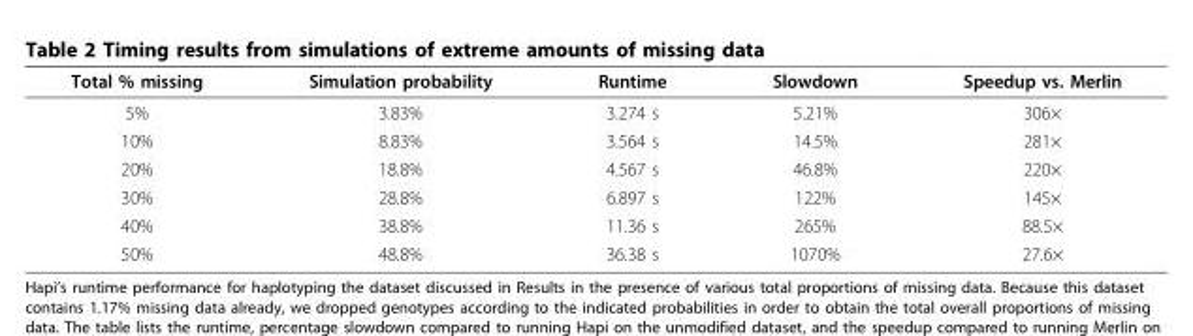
<table><thead><tr><td>Total % missing</td><td>Simulation probability</td><td>Runtime</td><td>Slowdown</td><td>Speedup vs. Merlin</td></tr></thead><tbody><tr><td>5%</td><td>3.83%</td><td>3.274 s</td><td>5.21%</td><td>306×</td></tr><tr><td>10%</td><td>8.83%</td><td>3.564 s</td><td>14.5%</td><td>281×</td></tr><tr><td>20%</td><td>18.8%</td><td>4.567 s</td><td>46.8%</td><td>220×</td></tr><tr><td>30%</td><td>28.8%</td><td>6.897 s</td><td>122%</td><td>145×</td></tr><tr><td>40%</td><td>38.8%</td><td>11.36 s</td><td>265%</td><td>88.5×</td></tr><tr><td>50%</td><td>48.8%</td><td>36.38 s</td><td>1070%</td><td>27.6×</td></tr></tbody></table>